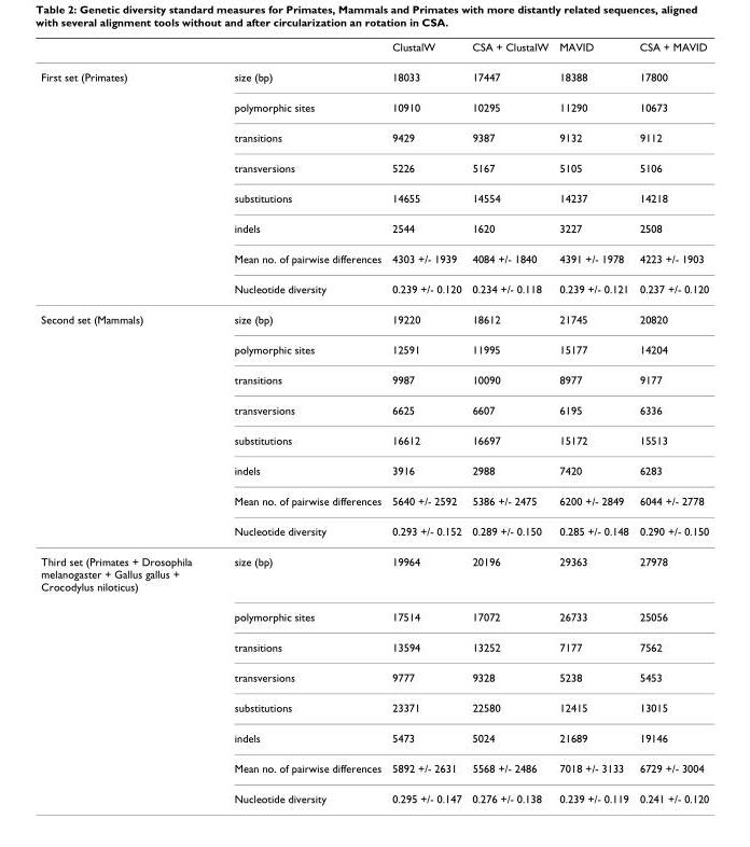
<table><thead><tr><td></td><td></td><td>ClustalW</td><td>CSA + ClustalW</td><td>MAVID</td><td>CSA + MAVID</td></tr></thead><tbody><tr><td rowspan="8">First set (Primates)</td><td>size (bp)</td><td>18033</td><td>17447</td><td>18388</td><td>17800</td></tr><tr><td>polymorphic sites</td><td>10910</td><td>10295</td><td>11290</td><td>10673</td></tr><tr><td>transitions</td><td>9429</td><td>9387</td><td>9132</td><td>9112</td></tr><tr><td>transversions</td><td>5226</td><td>5167</td><td>5105</td><td>5106</td></tr><tr><td>substitutions</td><td>14655</td><td>14554</td><td>14237</td><td>14218</td></tr><tr><td>indels</td><td>2544</td><td>1620</td><td>3227</td><td>2508</td></tr><tr><td>Mean no. of pairwise differences</td><td>4303 +/- 1939</td><td>4084 +/- 1840</td><td>4391 +/- 1978</td><td>4223 +/- 1903</td></tr><tr><td>Nucleotide diversity</td><td>0.239 +/- 0.120</td><td>0.234 +/- 0.118</td><td>0.239 +/- 0.121</td><td>0.237 +/- 0.120</td></tr><tr><td rowspan="8">Second set (Mammals)</td><td>size (bp)</td><td>19220</td><td>18612</td><td>21745</td><td>20820</td></tr><tr><td>polymorphic sites</td><td>12591</td><td>11995</td><td>15177</td><td>14204</td></tr><tr><td>transitions</td><td>9987</td><td>10090</td><td>8977</td><td>9177</td></tr><tr><td>transversions</td><td>6625</td><td>6607</td><td>6195</td><td>6336</td></tr><tr><td>substitutions</td><td>16612</td><td>16697</td><td>15172</td><td>15513</td></tr><tr><td>indels</td><td>3916</td><td>2988</td><td>7420</td><td>6283</td></tr><tr><td>Mean no. of pairwise differences</td><td>5640 +/- 2592</td><td>5386 +/- 2475</td><td>6200 +/- 2849</td><td>6044 +/- 2778</td></tr><tr><td>Nucleotide diversity</td><td>0.293 +/- 0.152</td><td>0.289 +/- 0.150</td><td>0.285 +/- 0.148</td><td>0.290 +/- 0.150</td></tr><tr><td rowspan="8">Third set (Primates + Drosophila melanogaster + Gallus gallus + Crocodylus niloticus)</td><td>size (bp)</td><td>19964</td><td>20196</td><td>29363</td><td>27978</td></tr><tr><td>polymorphic sites</td><td>17514</td><td>17072</td><td>26733</td><td>25056</td></tr><tr><td>transitions</td><td>13594</td><td>13252</td><td>7177</td><td>7562</td></tr><tr><td>transversions</td><td>9777</td><td>9328</td><td>5238</td><td>5453</td></tr><tr><td>substitutions</td><td>23371</td><td>22580</td><td>12415</td><td>13015</td></tr><tr><td>indels</td><td>5473</td><td>5024</td><td>21689</td><td>19146</td></tr><tr><td>Mean no. of pairwise differences</td><td>5892 +/- 2631</td><td>5568 +/- 2486</td><td>7018 +/- 3133</td><td>6729 +/- 3004</td></tr><tr><td>Nucleotide diversity</td><td>0.295 +/- 0.147</td><td>0.276 +/- 0.138</td><td>0.239 +/- 0.119</td><td>0.241 +/- 0.120</td></tr></tbody></table>